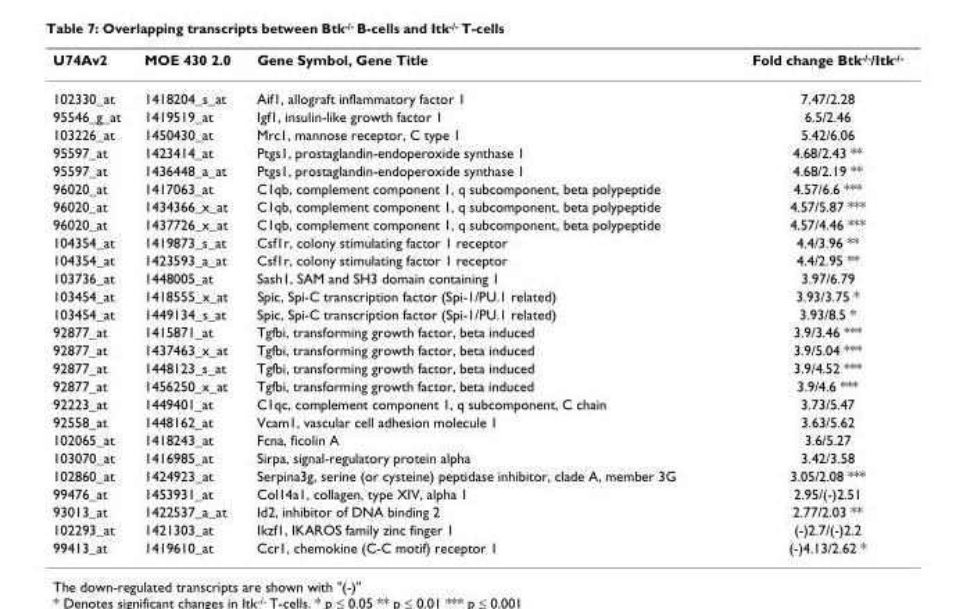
<table><thead><tr><td>U74Av2</td><td>MOE 430 2.0</td><td>Gene Symbol, Gene Title</td><td>Fold change Btk<sup>-/-</sup>/Itk<sup>-/-</sup></td></tr></thead><tbody><tr><td>102330_at</td><td>1418204_s_at</td><td>Aif1, allograft inflammatory factor 1</td><td>7.47/2.28</td></tr><tr><td>95546_g_at</td><td>1419519_at</td><td>Igf1, insulin-like growth factor 1</td><td>6.5/2.46</td></tr><tr><td>103226_at</td><td>1450430_at</td><td>Mrc1, mannose receptor, C type 1</td><td>5.42/6.06</td></tr><tr><td>95597_at</td><td>1423414_at</td><td>Ptgs1, prostaglandin-endoperoxide synthase 1</td><td>4.68/2.43 **</td></tr><tr><td>95597_at</td><td>1436448_a_at</td><td>Ptgs1, prostaglandin-endoperoxide synthase 1</td><td>4.68/2.19 **</td></tr><tr><td>96020_at</td><td>1417063_at</td><td>C1qb, complement component 1, q subcomponent, beta polypeptide</td><td>4.57/6.6 ***</td></tr><tr><td>96020_at</td><td>1434366_x_at</td><td>C1qb, complement component 1, q subcomponent, beta polypeptide</td><td>4.57/5.87 ***</td></tr><tr><td>96020_at</td><td>1437726_x_at</td><td>C1qb, complement component 1, q subcomponent, beta polypeptide</td><td>4.57/4.46 ***</td></tr><tr><td>104354_at</td><td>1419873_s_at</td><td>Csf1r, colony stimulating factor 1 receptor</td><td>4.4/3.96 **</td></tr><tr><td>104354_at</td><td>1423593_a_at</td><td>Csf1r, colony stimulating factor 1 receptor</td><td>4.4/2.95 **</td></tr><tr><td>103736_at</td><td>1448005_at</td><td>Sash1, SAM and SH3 domain containing 1</td><td>3.97/6.79</td></tr><tr><td>103454_at</td><td>1418555_x_at</td><td>Spic, Spi-C transcription factor (Spi-1/PU.1 related)</td><td>3.93/3.75 *</td></tr><tr><td>103454_at</td><td>1449134_s_at</td><td>Spic, Spi-C transcription factor (Spi-1/PU.1 related)</td><td>3.93/8.5 *</td></tr><tr><td>92877_at</td><td>1415871_at</td><td>Tgfbi, transforming growth factor, beta induced</td><td>3.9/3.46 ***</td></tr><tr><td>92877_at</td><td>1437463_x_at</td><td>Tgfbi, transforming growth factor, beta induced</td><td>3.9/5.04 ***</td></tr><tr><td>92877_at</td><td>1448123_s_at</td><td>Tgfbi, transforming growth factor, beta induced</td><td>3.9/4.52 ***</td></tr><tr><td>92877_at</td><td>1456250_x_at</td><td>Tgfbi, transforming growth factor, beta induced</td><td>3.9/4.6 ***</td></tr><tr><td>92223_at</td><td>1449401_at</td><td>C1qc, complement component 1, q subcomponent, C chain</td><td>3.73/5.47</td></tr><tr><td>92558_at</td><td>1448162_at</td><td>Vcam1, vascular cell adhesion molecule 1</td><td>3.63/5.62</td></tr><tr><td>102065_at</td><td>1418243_at</td><td>Fcna, ficolin A</td><td>3.6/5.27</td></tr><tr><td>103070_at</td><td>1416985_at</td><td>Sirpa, signal-regulatory protein alpha</td><td>3.42/3.58</td></tr><tr><td>102860_at</td><td>1424923_at</td><td>Serpina3g, serine (or cysteine) peptidase inhibitor, clade A, member 3G</td><td>3.05/2.08 ***</td></tr><tr><td>99476_at</td><td>1453931_at</td><td>Col14a1, collagen, type XIV, alpha 1</td><td>2.95/(-)2.51</td></tr><tr><td>93013_at</td><td>1422537_a_at</td><td>Id2, inhibitor of DNA binding 2</td><td>2.77/2.03 **</td></tr><tr><td>102293_at</td><td>1421303_at</td><td>Ikzf1, IKAROS family zinc finger 1</td><td>(-)2.7/(-)2.2</td></tr><tr><td>99413_at</td><td>1419610_at</td><td>Ccr1, chemokine (C-C motif) receptor 1</td><td>(-)4.13/2.62 *</td></tr></tbody></table>